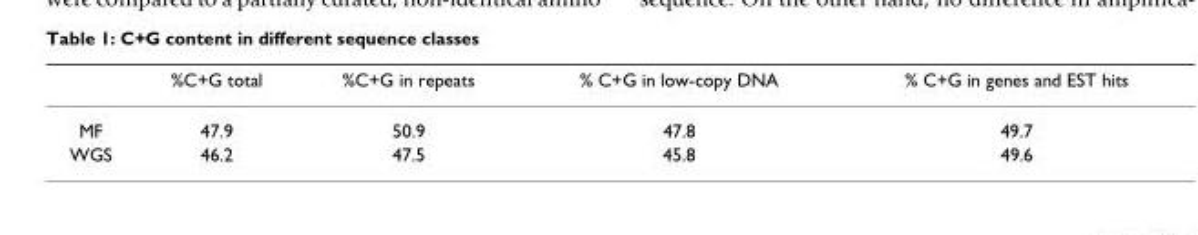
<table><thead><tr><td></td><td>%C+G total</td><td>%C+G in repeats</td><td>% C+G in low-copy DNA</td><td>% C+G in genes and EST hits</td></tr></thead><tbody><tr><td>MF</td><td>47.9</td><td>50.9</td><td>47.8</td><td>49.7</td></tr><tr><td>WGS</td><td>46.2</td><td>47.5</td><td>45.8</td><td>49.6</td></tr></tbody></table>